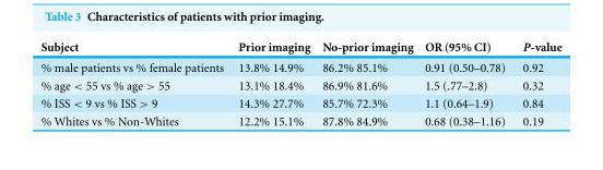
<table><thead><tr><td>Subject</td><td>Prior imaging</td><td>No-prior imaging</td><td>OR (95% CI)</td><td>P-value</td></tr></thead><tbody><tr><td>% male patients vs % female patients</td><td>13.8% 14.9%</td><td>86.2% 85.1%</td><td>0.91 (0.50–0.78)</td><td>0.92</td></tr><tr><td>% age &lt; 55 vs % age &gt; 55</td><td>13.1% 18.4%</td><td>86.9% 81.6%</td><td>1.5 (.77–2.8)</td><td>0.32</td></tr><tr><td>% ISS &lt; 9 vs % ISS &gt; 9</td><td>14.3% 27.7%</td><td>85.7% 72.3%</td><td>1.1 (0.64–1.9)</td><td>0.84</td></tr><tr><td>% Whites vs % Non-Whites</td><td>12.2% 15.1%</td><td>87.8% 84.9%</td><td>0.68 (0.38–1.16)</td><td>0.19</td></tr></tbody></table>